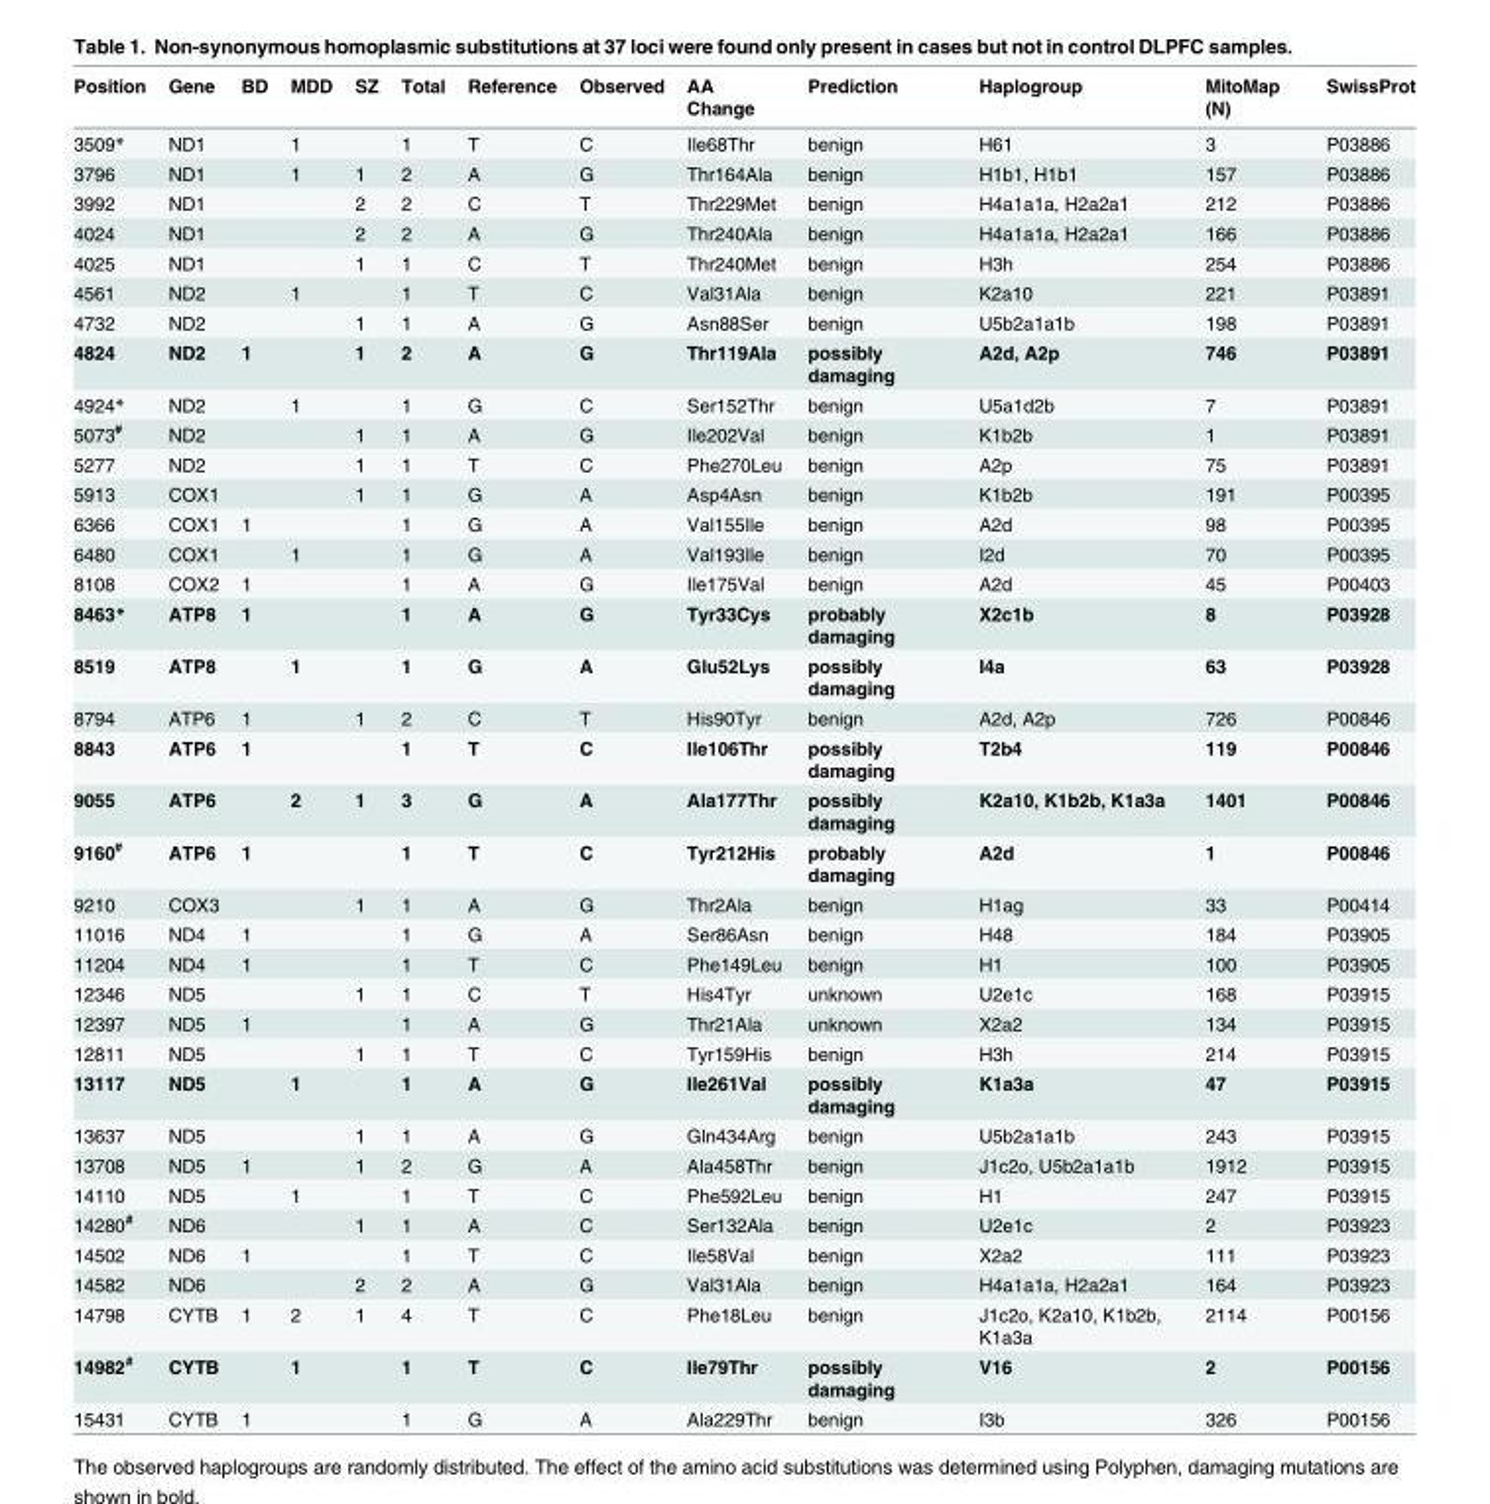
<table><thead><tr><td>Position</td><td>Gene</td><td>BD</td><td>MDD</td><td>SZ</td><td>Total</td><td>Reference</td><td>Observed</td><td>AA Change</td><td>Prediction</td><td>Haplogroup</td><td>MitoMap (N)</td><td>SwissProt</td></tr></thead><tbody><tr><td>3509*</td><td>ND1</td><td></td><td>1</td><td></td><td>1</td><td>T</td><td>C</td><td>Ile68Thr</td><td>benign</td><td>H61</td><td>3</td><td>P03886</td></tr><tr><td>3796</td><td>ND1</td><td></td><td>1</td><td>1</td><td>2</td><td>A</td><td>G</td><td>Thr164Ala</td><td>benign</td><td>H1b1, H1b1</td><td>157</td><td>P03886</td></tr><tr><td>3992</td><td>ND1</td><td></td><td></td><td>2</td><td>2</td><td>C</td><td>T</td><td>Thr229Met</td><td>benign</td><td>H4a1a1a, H2a2a1</td><td>212</td><td>P03886</td></tr><tr><td>4024</td><td>ND1</td><td></td><td></td><td>2</td><td>2</td><td>A</td><td>G</td><td>Thr240Ala</td><td>benign</td><td>H4a1a1a, H2a2a1</td><td>166</td><td>P03886</td></tr><tr><td>4025</td><td>ND1</td><td></td><td></td><td>1</td><td>1</td><td>C</td><td>T</td><td>Thr240Met</td><td>benign</td><td>H3h</td><td>254</td><td>P03886</td></tr><tr><td>4561</td><td>ND2</td><td></td><td>1</td><td></td><td>1</td><td>T</td><td>C</td><td>Val31Ala</td><td>benign</td><td>K2a10</td><td>221</td><td>P03891</td></tr><tr><td>4732</td><td>ND2</td><td></td><td></td><td>1</td><td>1</td><td>A</td><td>G</td><td>Asn88Ser</td><td>benign</td><td>U5b2a1a1b</td><td>198</td><td>P03891</td></tr><tr><td>4824</td><td>ND2</td><td>1</td><td></td><td>1</td><td>2</td><td>A</td><td>G</td><td>Thr119Ala</td><td>possibly damaging</td><td>A2d, A2p</td><td>746</td><td>P03891</td></tr><tr><td>4924*</td><td>ND2</td><td></td><td>1</td><td></td><td>1</td><td>G</td><td>C</td><td>Ser152Thr</td><td>benign</td><td>U5a1d2b</td><td>7</td><td>P03891</td></tr><tr><td>5073<sup>#</sup></td><td>ND2</td><td></td><td></td><td>1</td><td>1</td><td>A</td><td>G</td><td>Ile202Val</td><td>benign</td><td>K1b2b</td><td>1</td><td>P03891</td></tr><tr><td>5277</td><td>ND2</td><td></td><td></td><td>1</td><td>1</td><td>T</td><td>C</td><td>Phe270Leu</td><td>benign</td><td>A2p</td><td>75</td><td>P03891</td></tr><tr><td>5913</td><td>COX1</td><td></td><td></td><td>1</td><td>1</td><td>G</td><td>A</td><td>Asp4Asn</td><td>benign</td><td>K1b2b</td><td>191</td><td>P00395</td></tr><tr><td>6366</td><td>COX1</td><td>1</td><td></td><td></td><td>1</td><td>G</td><td>A</td><td>Val155Ile</td><td>benign</td><td>A2d</td><td>98</td><td>P00395</td></tr><tr><td>6480</td><td>COX1</td><td></td><td>1</td><td></td><td>1</td><td>G</td><td>A</td><td>Val193Ile</td><td>benign</td><td>I2d</td><td>70</td><td>P00395</td></tr><tr><td>8108</td><td>COX2</td><td>1</td><td></td><td></td><td>1</td><td>A</td><td>G</td><td>Ile175Val</td><td>benign</td><td>A2d</td><td>45</td><td>P00403</td></tr><tr><td>8463*</td><td>ATP8</td><td>1</td><td></td><td></td><td>1</td><td>A</td><td>G</td><td>Tyr33Cys</td><td>probably damaging</td><td>X2c1b</td><td>8</td><td>P03928</td></tr><tr><td>8519</td><td>ATP8</td><td></td><td>1</td><td></td><td>1</td><td>G</td><td>A</td><td>Glu52Lys</td><td>possibly damaging</td><td>I4a</td><td>63</td><td>P03928</td></tr><tr><td>8794</td><td>ATP6</td><td>1</td><td></td><td>1</td><td>2</td><td>C</td><td>T</td><td>His90Tyr</td><td>benign</td><td>A2d, A2p</td><td>726</td><td>P00846</td></tr><tr><td>8843</td><td>ATP6</td><td>1</td><td></td><td></td><td>1</td><td>T</td><td>C</td><td>Ile106Thr</td><td>possibly damaging</td><td>T2b4</td><td>119</td><td>P00846</td></tr><tr><td>9055</td><td>ATP6</td><td></td><td>2</td><td>1</td><td>3</td><td>G</td><td>A</td><td>Ala177Thr</td><td>possibly damaging</td><td>K2a10, K1b2b, K1a3a</td><td>1401</td><td>P00846</td></tr><tr><td>9160<sup>#</sup></td><td>ATP6</td><td>1</td><td></td><td></td><td>1</td><td>T</td><td>C</td><td>Tyr212His</td><td>probably damaging</td><td>A2d</td><td>1</td><td>P00846</td></tr><tr><td>9210</td><td>COX3</td><td></td><td></td><td>1</td><td>1</td><td>A</td><td>G</td><td>Thr2Ala</td><td>benign</td><td>H1ag</td><td>33</td><td>P00414</td></tr><tr><td>11016</td><td>ND4</td><td>1</td><td></td><td></td><td>1</td><td>G</td><td>A</td><td>Ser86Asn</td><td>benign</td><td>H48</td><td>184</td><td>P03905</td></tr><tr><td>11204</td><td>ND4</td><td>1</td><td></td><td></td><td>1</td><td>T</td><td>C</td><td>Phe149Leu</td><td>benign</td><td>H1</td><td>100</td><td>P03905</td></tr><tr><td>12346</td><td>ND5</td><td></td><td></td><td>1</td><td>1</td><td>C</td><td>T</td><td>His4Tyr</td><td>unknown</td><td>U2e1c</td><td>168</td><td>P03915</td></tr><tr><td>12397</td><td>ND5</td><td>1</td><td></td><td></td><td>1</td><td>A</td><td>G</td><td>Thr21Ala</td><td>unknown</td><td>X2a2</td><td>134</td><td>P03915</td></tr><tr><td>12811</td><td>ND5</td><td></td><td></td><td>1</td><td>1</td><td>T</td><td>C</td><td>Tyr159His</td><td>benign</td><td>H3h</td><td>214</td><td>P03915</td></tr><tr><td>13117</td><td>ND5</td><td></td><td>1</td><td></td><td>1</td><td>A</td><td>G</td><td>Ile261Val</td><td>possibly damaging</td><td>K1a3a</td><td>47</td><td>P03915</td></tr><tr><td>13637</td><td>ND5</td><td></td><td></td><td>1</td><td>1</td><td>A</td><td>G</td><td>Gln434Arg</td><td>benign</td><td>U5b2a1a1b</td><td>243</td><td>P03915</td></tr><tr><td>13708</td><td>ND5</td><td>1</td><td></td><td>1</td><td>2</td><td>G</td><td>A</td><td>Ala458Thr</td><td>benign</td><td>J1c2o, U5b2a1a1b</td><td>1912</td><td>P03915</td></tr><tr><td>14110</td><td>ND5</td><td></td><td>1</td><td></td><td>1</td><td>T</td><td>C</td><td>Phe592Leu</td><td>benign</td><td>H1</td><td>247</td><td>P03915</td></tr><tr><td>14280<sup>#</sup></td><td>ND6</td><td></td><td></td><td>1</td><td>1</td><td>A</td><td>C</td><td>Ser132Ala</td><td>benign</td><td>U2e1c</td><td>2</td><td>P03923</td></tr><tr><td>14502</td><td>ND6</td><td>1</td><td></td><td></td><td>1</td><td>T</td><td>C</td><td>Ile58Val</td><td>benign</td><td>X2a2</td><td>111</td><td>P03923</td></tr><tr><td>14582</td><td>ND6</td><td></td><td></td><td>2</td><td>2</td><td>A</td><td>G</td><td>Val31Ala</td><td>benign</td><td>H4a1a1a, H2a2a1</td><td>164</td><td>P03923</td></tr><tr><td>14798</td><td>CYTB</td><td>1</td><td>2</td><td>1</td><td>4</td><td>T</td><td>C</td><td>Phe18Leu</td><td>benign</td><td>J1c2o, K2a10, K1b2b, K1a3a</td><td>2114</td><td>P00156</td></tr><tr><td>14982<sup>#</sup></td><td>CYTB</td><td></td><td>1</td><td></td><td>1</td><td>T</td><td>C</td><td>Ile79Thr</td><td>possibly damaging</td><td>V16</td><td>2</td><td>P00156</td></tr><tr><td>15431</td><td>CYTB</td><td>1</td><td></td><td></td><td>1</td><td>G</td><td>A</td><td>Ala229Thr</td><td>benign</td><td>I3b</td><td>326</td><td>P00156</td></tr></tbody></table>